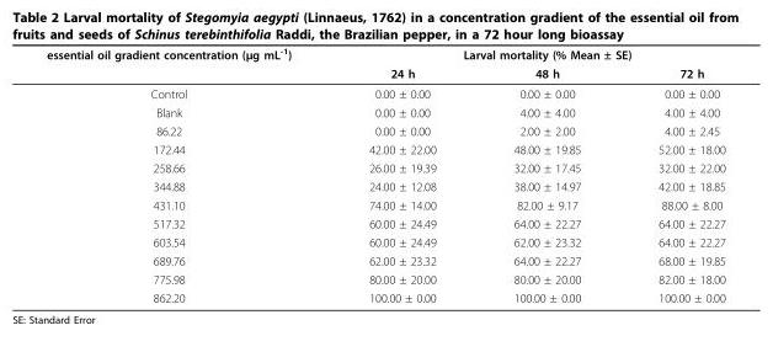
<table><thead><tr><td rowspan="2">essential oil gradient concentration (μg mL<sup>-1</sup>)</td><td colspan="3">Larval mortality (% Mean ± SE)</td></tr><tr><td>24 h</td><td>48 h</td><td>72 h</td></tr></thead><tbody><tr><td>Control</td><td>0.00 ± 0.00</td><td>0.00 ± 0.00</td><td>0.00 ± 0.00</td></tr><tr><td>Blank</td><td>0.00 ± 0.00</td><td>4.00 ± 4.00</td><td>4.00 ± 4.00</td></tr><tr><td>86.22</td><td>0.00 ± 0.00</td><td>2.00 ± 2.00</td><td>4.00 ± 2.45</td></tr><tr><td>172.44</td><td>42.00 ± 22.00</td><td>48.00 ± 19.85</td><td>52.00 ± 18.00</td></tr><tr><td>258.66</td><td>26.00 ± 19.39</td><td>32.00 ± 17.45</td><td>32.00 ± 22.00</td></tr><tr><td>344.88</td><td>24.00 ± 12.08</td><td>38.00 ± 14.97</td><td>42.00 ± 18.85</td></tr><tr><td>431.10</td><td>74.00 ± 14.00</td><td>82.00 ± 9.17</td><td>88.00 ± 8.00</td></tr><tr><td>517.32</td><td>60.00 ± 24.49</td><td>64.00 ± 22.27</td><td>64.00 ± 22.27</td></tr><tr><td>603.54</td><td>60.00 ± 24.49</td><td>62.00 ± 23.32</td><td>64.00 ± 22.27</td></tr><tr><td>689.76</td><td>62.00 ± 23.32</td><td>64.00 ± 22.27</td><td>68.00 ± 19.85</td></tr><tr><td>775.98</td><td>80.00 ± 20.00</td><td>80.00 ± 20.00</td><td>82.00 ± 18.00</td></tr><tr><td>862.20</td><td>100.00 ± 0.00</td><td>100.00 ± 0.00</td><td>100.00 ± 0.00</td></tr></tbody></table>